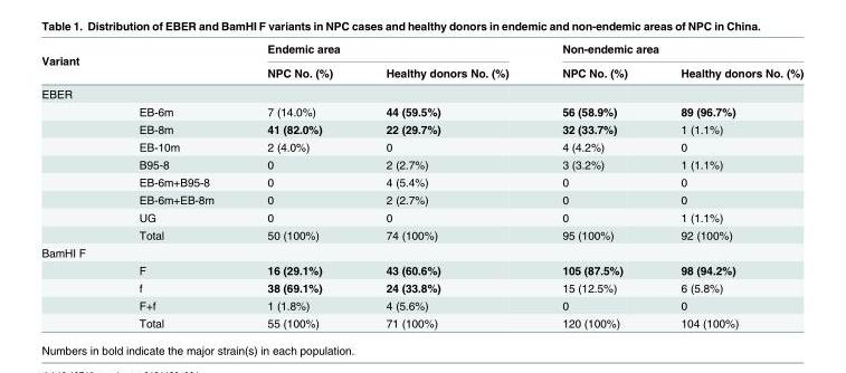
<table><thead><tr><td rowspan="2" colspan="2">Variant</td><td colspan="2">Endemic area</td><td colspan="2">Non-endemic area</td></tr><tr><td rowspan="2">NPC No. (%)</td><td rowspan="2">Healthy donors No. (%)</td><td rowspan="2">NPC No. (%)</td><td rowspan="2">Healthy donors No. (%)</td></tr><tr><td>EBER</td><td></td></tr></thead><tbody><tr><td></td><td>EB-6m</td><td>7 (14.0%)</td><td>44 (59.5%)</td><td>56 (58.9%)</td><td>89 (96.7%)</td></tr><tr><td></td><td>EB-8m</td><td>41 (82.0%)</td><td>22 (29.7%)</td><td>32 (33.7%)</td><td>1 (1.1%)</td></tr><tr><td></td><td>EB-10m</td><td>2 (4.0%)</td><td>0</td><td>4 (4.2%)</td><td>0</td></tr><tr><td></td><td>B95-8</td><td>0</td><td>2 (2.7%)</td><td>3 (3.2%)</td><td>1 (1.1%)</td></tr><tr><td></td><td>EB-6m+B95-8</td><td>0</td><td>4 (5.4%)</td><td>0</td><td>0</td></tr><tr><td></td><td>EB-6m+EB-8m</td><td>0</td><td>2 (2.7%)</td><td>0</td><td>0</td></tr><tr><td></td><td>UG</td><td>0</td><td>0</td><td>0</td><td>1 (1.1%)</td></tr><tr><td></td><td>Total</td><td>50 (100%)</td><td>74 (100%)</td><td>95 (100%)</td><td>92 (100%)</td></tr><tr><td colspan="6">BamHI F</td></tr><tr><td></td><td>F</td><td>16 (29.1%)</td><td>43 (60.6%)</td><td>105 (87.5%)</td><td>98 (94.2%)</td></tr><tr><td></td><td>f</td><td>38 (69.1%)</td><td>24 (33.8%)</td><td>15 (12.5%)</td><td>6 (5.8%)</td></tr><tr><td></td><td>F+f</td><td>1 (1.8%)</td><td>4 (5.6%)</td><td>0</td><td>0</td></tr><tr><td></td><td>Total</td><td>55 (100%)</td><td>71 (100%)</td><td>120 (100%)</td><td>104 (100%)</td></tr></tbody></table>